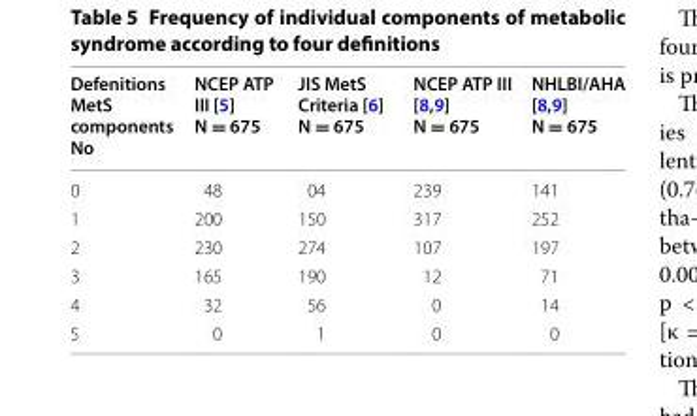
<table><thead><tr><td>Defenitions MetS components No</td><td>NCEP ATP III [5] N = 675</td><td>JIS MetS Criteria [6] N = 675</td><td>NCEP ATP III [8,9] N = 675</td><td>NHLBI/AHA [8,9] N = 675</td></tr></thead><tbody><tr><td>0</td><td>48</td><td>04</td><td>239</td><td>141</td></tr><tr><td>1</td><td>200</td><td>150</td><td>317</td><td>252</td></tr><tr><td>2</td><td>230</td><td>274</td><td>107</td><td>197</td></tr><tr><td>3</td><td>165</td><td>190</td><td>12</td><td>71</td></tr><tr><td>4</td><td>32</td><td>56</td><td>0</td><td>14</td></tr><tr><td>5</td><td>0</td><td>1</td><td>0</td><td>0</td></tr></tbody></table>